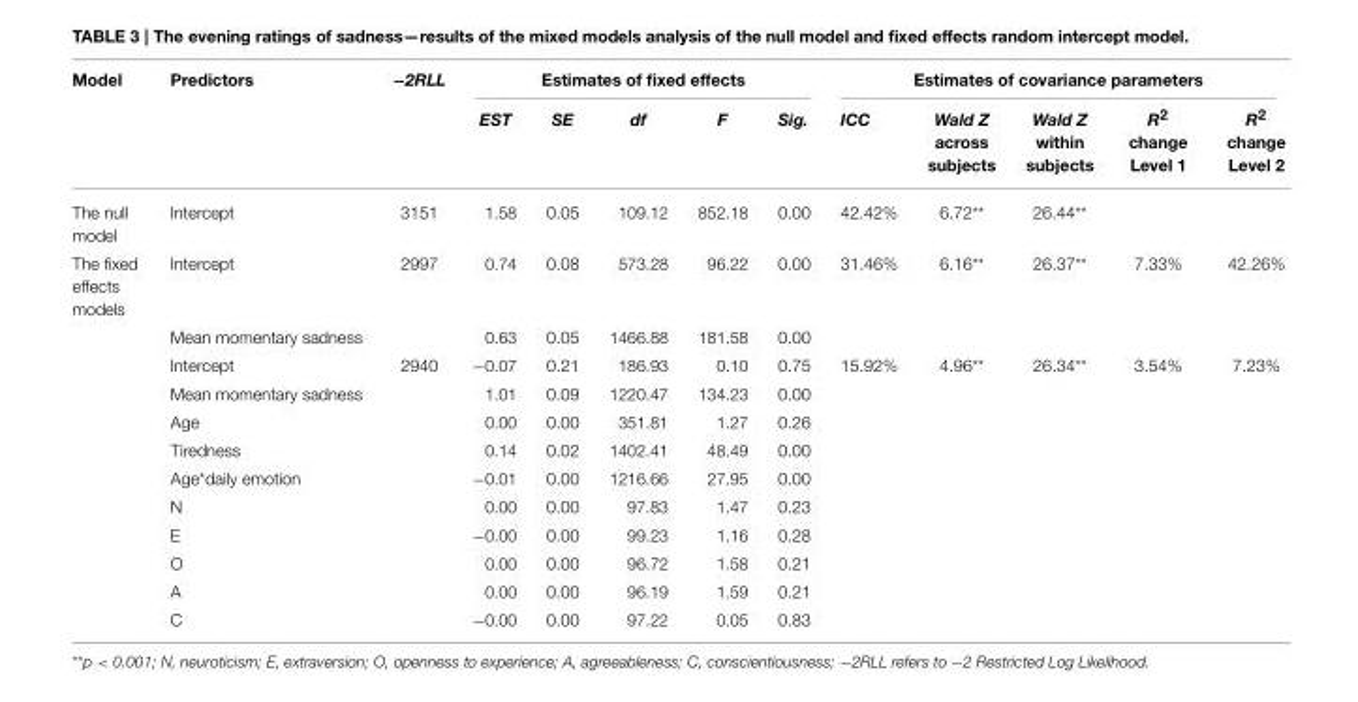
<table><thead><tr><td rowspan="2">Model</td><td rowspan="2">Predictors</td><td rowspan="2">−2RLL</td><td colspan="5">Estimates of fixed effects</td><td colspan="5">Estimates of covariance parameters</td></tr><tr><td>EST</td><td>SE</td><td>df</td><td>F</td><td>Sig.</td><td>ICC</td><td>Wald Z across subjects</td><td>Wald Z within subjects</td><td>R<sup>2</sup> change Level 1</td><td>R<sup>2</sup> change Level 2</td></tr></thead><tbody><tr><td>The null model</td><td>Intercept</td><td>3151</td><td>1.58</td><td>0.05</td><td>109.12</td><td>852.18</td><td>0.00</td><td>42.42%</td><td>6.72**</td><td>26.44**</td><td></td><td></td></tr><tr><td rowspan="12">The fixed effects models</td><td>Intercept</td><td>2997</td><td>0.74</td><td>0.08</td><td>573.28</td><td>96.22</td><td>0.00</td><td>31.46%</td><td>6.16**</td><td>26.37**</td><td>7.33%</td><td>42.26%</td></tr><tr><td>Mean momentary sadness</td><td></td><td>0.63</td><td>0.05</td><td>1466.88</td><td>181.58</td><td>0.00</td><td></td><td></td><td></td><td></td><td></td></tr><tr><td>Intercept</td><td>2940</td><td>−0.07</td><td>0.21</td><td>186.93</td><td>0.10</td><td>0.75</td><td>15.92%</td><td>4.96**</td><td>26.34**</td><td>3.54%</td><td>7.23%</td></tr><tr><td>Mean momentary sadness</td><td></td><td>1.01</td><td>0.09</td><td>1220.47</td><td>134.23</td><td>0.00</td><td></td><td></td><td></td><td></td><td></td></tr><tr><td>Age</td><td></td><td>0.00</td><td>0.00</td><td>351.81</td><td>1.27</td><td>0.26</td><td></td><td></td><td></td><td></td><td></td></tr><tr><td>Tiredness</td><td></td><td>0.14</td><td>0.02</td><td>1402.41</td><td>48.49</td><td>0.00</td><td></td><td></td><td></td><td></td><td></td></tr><tr><td>Age*daily emotion</td><td></td><td>−0.01</td><td>0.00</td><td>1216.66</td><td>27.95</td><td>0.00</td><td></td><td></td><td></td><td></td><td></td></tr><tr><td>N</td><td></td><td>0.00</td><td>0.00</td><td>97.83</td><td>1.47</td><td>0.23</td><td></td><td></td><td></td><td></td><td></td></tr><tr><td>E</td><td></td><td>−0.00</td><td>0.00</td><td>99.23</td><td>1.16</td><td>0.28</td><td></td><td></td><td></td><td></td><td></td></tr><tr><td>O</td><td></td><td>0.00</td><td>0.00</td><td>96.72</td><td>1.58</td><td>0.21</td><td></td><td></td><td></td><td></td><td></td></tr><tr><td>A</td><td></td><td>0.00</td><td>0.00</td><td>96.19</td><td>1.59</td><td>0.21</td><td></td><td></td><td></td><td></td><td></td></tr><tr><td>C</td><td></td><td>−0.00</td><td>0.00</td><td>97.22</td><td>0.05</td><td>0.83</td><td></td><td></td><td></td><td></td><td></td></tr></tbody></table>